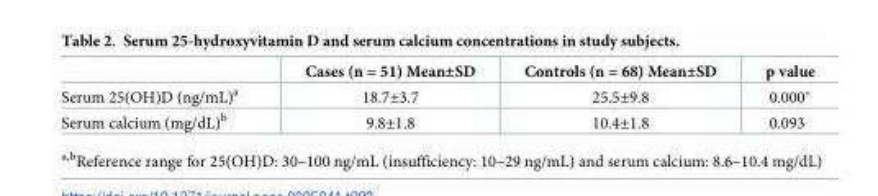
<table><thead><tr><td></td><td>Cases (n = 51) Mean±SD</td><td>Controls (n = 68) Mean±SD</td><td>p value</td></tr></thead><tbody><tr><td>Serum 25(OH)D (ng/mL)<sup>a</sup></td><td>18.7±3.7</td><td>25.5±9.8</td><td>0.000*</td></tr><tr><td>Serum calcium (mg/dL)<sup>b</sup></td><td>9.8±1.8</td><td>10.4±1.8</td><td>0.093</td></tr></tbody></table>